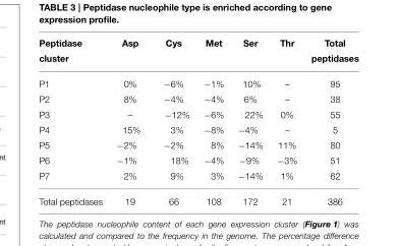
<table><thead><tr><td>Peptidase cluster</td><td>Asp</td><td>Cys</td><td>Met</td><td>Ser</td><td>Thr</td><td>Total peptidases</td></tr></thead><tbody><tr><td>P1</td><td>0%</td><td>−6%</td><td>−1%</td><td>10%</td><td>–</td><td>95</td></tr><tr><td>P2</td><td>8%</td><td>−4%</td><td>−4%</td><td>6%</td><td>–</td><td>38</td></tr><tr><td>P3</td><td>–</td><td>−12%</td><td>−6%</td><td>22%</td><td>0%</td><td>55</td></tr><tr><td>P4</td><td>15%</td><td>3%</td><td>−8%</td><td>−4%</td><td>–</td><td>5</td></tr><tr><td>P5</td><td>−2%</td><td>−2%</td><td>8%</td><td>−14%</td><td>11%</td><td>80</td></tr><tr><td>P6</td><td>−1%</td><td>18%</td><td>−4%</td><td>−9%</td><td>−3%</td><td>51</td></tr><tr><td>P7</td><td>2%</td><td>9%</td><td>3%</td><td>−14%</td><td>1%</td><td>62</td></tr><tr><td>Total peptidases</td><td>19</td><td>66</td><td>108</td><td>172</td><td>21</td><td>386</td></tr></tbody></table>